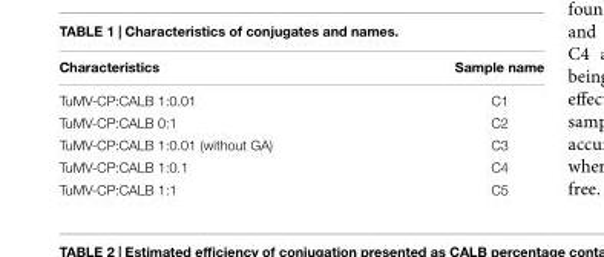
<table><thead><tr><td>Characteristics</td><td>Sample name</td></tr></thead><tbody><tr><td>TuMV-CP:CALB 1:0.01</td><td>C1</td></tr><tr><td>TuMV-CP:CALB 0:1</td><td>C2</td></tr><tr><td>TuMV-CP:CALB 1:0.01 (without GA)</td><td>C3</td></tr><tr><td>TuMV-CP:CALB 1:0.1</td><td>C4</td></tr><tr><td>TuMV-CP:CALB 1:1</td><td>C5</td></tr></tbody></table>